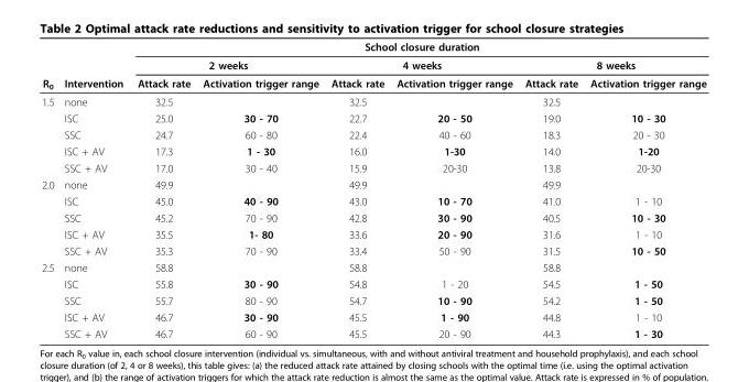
<table><thead><tr><td rowspan="3">R<sub>0</sub></td><td rowspan="3">Intervention</td><td colspan="6">School closure duration</td></tr><tr><td colspan="2">2 weeks</td><td colspan="2">4 weeks</td><td colspan="2">8 weeks</td></tr><tr><td>Attack rate</td><td>Activation trigger range</td><td>Attack rate</td><td>Activation trigger range</td><td>Attack rate</td><td>Activation trigger range</td></tr></thead><tbody><tr><td rowspan="5">1.5</td><td>none</td><td>32.5</td><td></td><td>32.5</td><td></td><td>32.5</td><td></td></tr><tr><td>ISC</td><td>25.0</td><td>30 - 70</td><td>22.7</td><td>20 - 50</td><td>19.0</td><td>10 - 30</td></tr><tr><td>SSC</td><td>24.7</td><td>60 - 80</td><td>22.4</td><td>40 - 60</td><td>18.3</td><td>20 - 30</td></tr><tr><td>ISC + AV</td><td>17.3</td><td>1 - 30</td><td>16.0</td><td>1-30</td><td>14.0</td><td>1-20</td></tr><tr><td>SSC + AV</td><td>17.0</td><td>30 - 40</td><td>15.9</td><td>20-30</td><td>13.8</td><td>20-30</td></tr><tr><td rowspan="5">2.0</td><td>none</td><td>49.9</td><td></td><td>49.9</td><td></td><td>49.9</td><td></td></tr><tr><td>ISC</td><td>45.0</td><td>40 - 90</td><td>43.0</td><td>10 - 70</td><td>41.0</td><td>1 - 10</td></tr><tr><td>SSC</td><td>45.2</td><td>70 - 90</td><td>42.8</td><td>30 - 90</td><td>40.5</td><td>10 - 30</td></tr><tr><td>ISC + AV</td><td>35.5</td><td>1- 80</td><td>33.6</td><td>20 - 90</td><td>31.6</td><td>1 - 10</td></tr><tr><td>SSC + AV</td><td>35.3</td><td>70 - 90</td><td>33.4</td><td>50 - 90</td><td>31.5</td><td>10 - 50</td></tr><tr><td rowspan="5">2.5</td><td>none</td><td>58.8</td><td></td><td>58.8</td><td></td><td>58.8</td><td></td></tr><tr><td>ISC</td><td>55.8</td><td>30 - 90</td><td>54.8</td><td>1 - 20</td><td>54.5</td><td>1 - 50</td></tr><tr><td>SSC</td><td>55.7</td><td>80 - 90</td><td>54.7</td><td>10 - 90</td><td>54.2</td><td>1 - 50</td></tr><tr><td>ISC + AV</td><td>46.7</td><td>30 - 90</td><td>45.5</td><td>1 - 90</td><td>44.8</td><td>1 - 10</td></tr><tr><td>SSC + AV</td><td>46.7</td><td>60 - 90</td><td>45.5</td><td>20 - 90</td><td>44.3</td><td>1 - 30</td></tr></tbody></table>